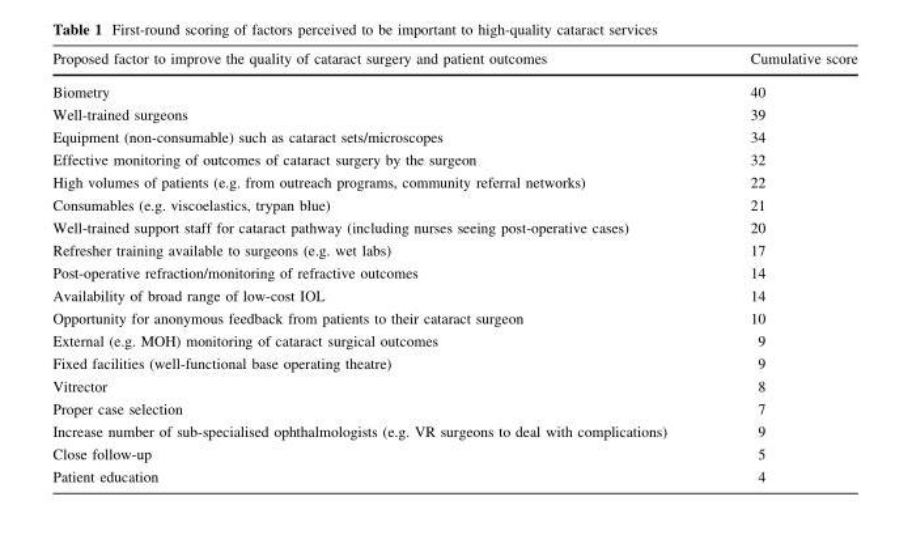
<table><thead><tr><td>Proposed factor to improve the quality of cataract surgery and patient outcomes</td><td>Cumulative score</td></tr></thead><tbody><tr><td>Biometry</td><td>40</td></tr><tr><td>Well-trained surgeons</td><td>39</td></tr><tr><td>Equipment (non-consumable) such as cataract sets/microscopes</td><td>34</td></tr><tr><td>Effective monitoring of outcomes of cataract surgery by the surgeon</td><td>32</td></tr><tr><td>High volumes of patients (e.g. from outreach programs, community referral networks)</td><td>22</td></tr><tr><td>Consumables (e.g. viscoelastics, trypan blue)</td><td>21</td></tr><tr><td>Well-trained support staff for cataract pathway (including nurses seeing post-operative cases)</td><td>20</td></tr><tr><td>Refresher training available to surgeons (e.g. wet labs)</td><td>17</td></tr><tr><td>Post-operative refraction/monitoring of refractive outcomes</td><td>14</td></tr><tr><td>Availability of broad range of low-cost IOL</td><td>14</td></tr><tr><td>Opportunity for anonymous feedback from patients to their cataract surgeon</td><td>10</td></tr><tr><td>External (e.g. MOH) monitoring of cataract surgical outcomes</td><td>9</td></tr><tr><td>Fixed facilities (well-functional base operating theatre)</td><td>9</td></tr><tr><td>Vitrector</td><td>8</td></tr><tr><td>Proper case selection</td><td>7</td></tr><tr><td>Increase number of sub-specialised ophthalmologists (e.g. VR surgeons to deal with complications)</td><td>9</td></tr><tr><td>Close follow-up</td><td>5</td></tr><tr><td>Patient education</td><td>4</td></tr></tbody></table>